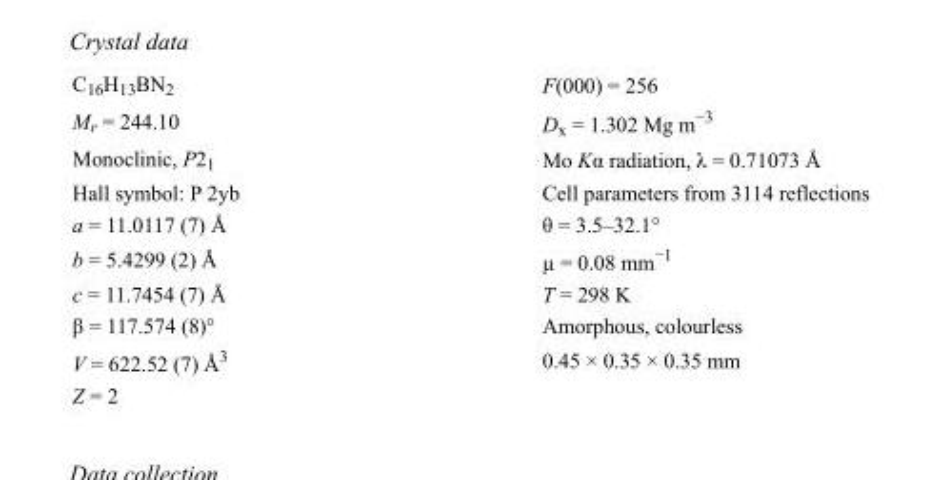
<table><tbody><tr><td>C<sub>16</sub>H<sub>13</sub>BN<sub>2</sub></td><td>F(000) = 256</td></tr><tr><td>M<sub>r</sub> = 244.10</td><td>D<sub>x</sub> = 1.302 Mg m<sup>−3</sup></td></tr><tr><td>Monoclinic, P2<sub>1</sub></td><td>Mo Kα radiation, λ = 0.71073 Å</td></tr><tr><td>Hall symbol: P 2yb</td><td>Cell parameters from 3114 reflections</td></tr><tr><td>a = 11.0117 (7) Å</td><td>θ = 3.5–32.1°</td></tr><tr><td>b = 5.4299 (2) Å</td><td>µ = 0.08 mm<sup>−1</sup></td></tr><tr><td>c = 11.7454 (7) Å</td><td>T = 298 K</td></tr><tr><td>β = 117.574 (8)°</td><td>Amorphous, colourless</td></tr><tr><td>V = 622.52 (7) Å<sup>3</sup></td><td>0.45 × 0.35 × 0.35 mm</td></tr><tr><td>Z = 2</td><td></td></tr></tbody></table>